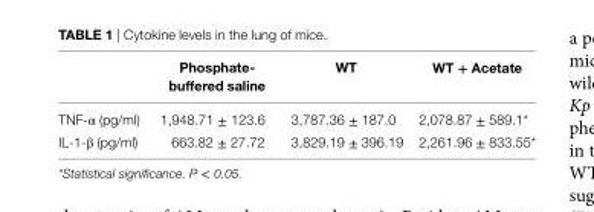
<table><thead><tr><td></td><td>Phosphate- buffered saline</td><td>WT</td><td>WT + acetate</td></tr></thead><tbody><tr><td>TNF-α (pg/ml)</td><td>1,948.71 ± 123.6</td><td>3,787.36 ± 187.0</td><td>2,078.87 ± 589.1*</td></tr><tr><td>IL-1-β (pg/ml)</td><td>663.82 ± 27.72</td><td>3,829.19 ± 396.19</td><td>2,261.96 ± 833.55*</td></tr></tbody></table>